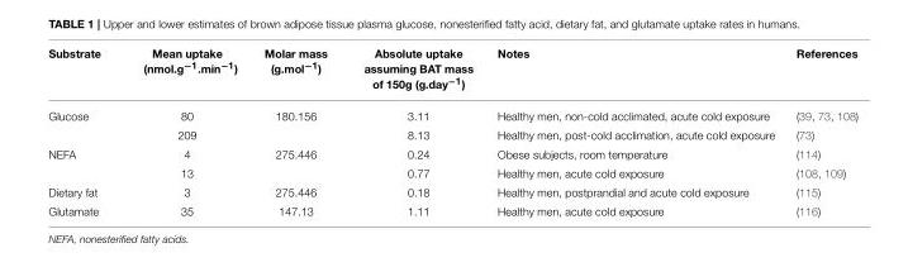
<table><thead><tr><td>Substrate</td><td>Mean uptake (nmol.g<sup>−1</sup>.min<sup>−1</sup>)</td><td>Molar mass (g.mol<sup>−1</sup>)</td><td>Absolute uptake assuming BAT mass of 150g (g.day<sup>−1</sup>)</td><td>Notes</td><td>References</td></tr></thead><tbody><tr><td rowspan="2">Glucose</td><td>80</td><td>180.156</td><td>3.11</td><td>Healthy men, non-cold acclimated, acute cold exposure</td><td>(39, 73, 108)</td></tr><tr><td>209</td><td></td><td>8.13</td><td>Healthy men, post-cold acclimation, acute cold exposure</td><td>(73)</td></tr><tr><td rowspan="2">NEFA</td><td>4</td><td>275.446</td><td>0.24</td><td>Obese subjects, room temperature</td><td>(114)</td></tr><tr><td>13</td><td></td><td>0.77</td><td>Healthy men, acute cold exposure</td><td>(108, 109)</td></tr><tr><td>Dietary fat</td><td>3</td><td>275.446</td><td>0.18</td><td>Healthy men, postprandial and acute cold exposure</td><td>(115)</td></tr><tr><td>Glutamate</td><td>35</td><td>147.13</td><td>1.11</td><td>Healthy men, acute cold exposure</td><td>(116)</td></tr></tbody></table>